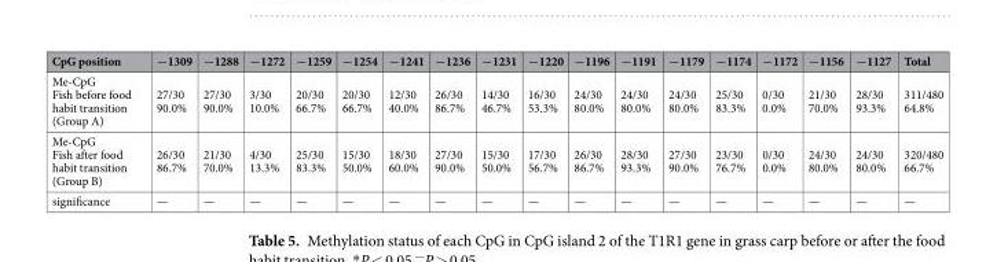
<table><thead><tr><td>CpG position</td><td>−1309</td><td>−1288</td><td>−1272</td><td>−1259</td><td>−1254</td><td>−1241</td><td>−1236</td><td>−1231</td><td>−1220</td><td>−1196</td><td>−1191</td><td>−1179</td><td>−1174</td><td>−1172</td><td>−1156</td><td>−1127</td><td>Total</td></tr></thead><tbody><tr><td>Me-CpG Fish before food habit transition (Group A)</td><td>27/30 90.0%</td><td>27/30 90.0%</td><td>3/30 10.0%</td><td>20/30 66.7%</td><td>20/30 66.7%</td><td>12/30 40.0%</td><td>26/30 86.7%</td><td>14/30 46.7%</td><td>16/30 53.3%</td><td>24/30 80.0%</td><td>24/30 80.0%</td><td>24/30 80.0%</td><td>25/30 83.3%</td><td>0/30 0.0%</td><td>21/30 70.0%</td><td>28/30 93.3%</td><td>311/480 64.8%</td></tr><tr><td>Me-CpG Fish after food habit transition (Group B)</td><td>26/30 86.7%</td><td>21/30 70.0%</td><td>4/30 13.3%</td><td>25/30 83.3%</td><td>15/30 50.0%</td><td>18/30 60.0%</td><td>27/30 90.0%</td><td>15/30 50.0%</td><td>17/30 56.7%</td><td>26/30 86.7%</td><td>28/30 93.3%</td><td>27/30 90.0%</td><td>23/30 76.7%</td><td>0/30 0.0%</td><td>24/30 80.0%</td><td>24/30 80.0%</td><td>320/480 66.7%</td></tr><tr><td>significance</td><td>—</td><td>—</td><td>—</td><td>—</td><td>—</td><td>—</td><td>—</td><td>—</td><td>—</td><td>—</td><td>—</td><td>—</td><td>—</td><td>—</td><td>—</td><td>—</td><td>—</td></tr></tbody></table>